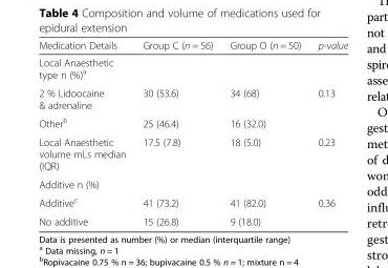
<table><thead><tr><td>Medication Details</td><td>Group C (n = 56)</td><td>Group O (n = 50)</td><td>p-value</td></tr></thead><tbody><tr><td colspan="4">Local Anaesthetic type n (%)<sup>a</sup></td></tr><tr><td>2 % Lidoocaine &amp; adrenaline</td><td>30 (53.6)</td><td>34 (68)</td><td>0.13</td></tr><tr><td>Other<sup>b</sup></td><td>25 (46.4)</td><td>16 (32.0)</td><td></td></tr><tr><td>Local Anaesthetic volume mLs median (IQR)</td><td>17.5 (7.8)</td><td>18 (5.0)</td><td>0.23</td></tr><tr><td colspan="4">Additive n (%)</td></tr><tr><td>Additive<sup>c</sup></td><td>41 (73.2)</td><td>41 (82.0)</td><td>0.36</td></tr><tr><td>No additive</td><td>15 (26.8)</td><td>9 (18.0)</td><td></td></tr></tbody></table>